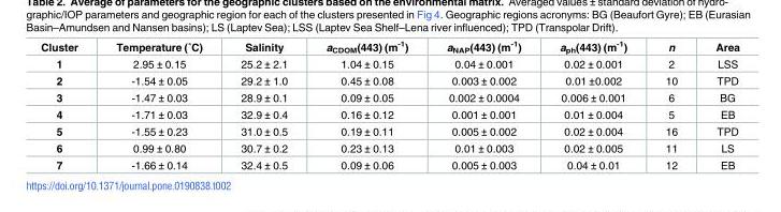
<table><thead><tr><td>Cluster</td><td>Temperature (˚C)</td><td>Salinity</td><td>a<sub>CDOM</sub>(443) (m<sup>-1</sup>)</td><td>a<sub>NAP</sub>(443) (m<sup>-1</sup>)</td><td>a<sub>ph</sub>(443) (m<sup>-1</sup>)</td><td>n</td><td>Area</td></tr></thead><tbody><tr><td>1</td><td>2.95 ± 0.15</td><td>25.2 ± 2.1</td><td>1.04 ± 0.15</td><td>0.04 ± 0.001</td><td>0.02 ± 0.001</td><td>2</td><td>LSS</td></tr><tr><td>2</td><td>-1.54 ± 0.05</td><td>29.2 ± 1.0</td><td>0.45 ± 0.08</td><td>0.003 ± 0.002</td><td>0.01 ±0.002</td><td>10</td><td>TPD</td></tr><tr><td>3</td><td>-1.47 ± 0.03</td><td>28.9 ± 0.1</td><td>0.09 ± 0.05</td><td>0.002 ± 0.0004</td><td>0.006 ± 0.001</td><td>6</td><td>BG</td></tr><tr><td>4</td><td>-1.71 ± 0.03</td><td>32.9 ± 0.4</td><td>0.16 ± 0.12</td><td>0.001 ± 0.001</td><td>0.01 ± 0.004</td><td>5</td><td>EB</td></tr><tr><td>5</td><td>-1.55 ± 0.23</td><td>31.0 ± 0.5</td><td>0.19 ± 0.11</td><td>0.005 ± 0.002</td><td>0.02 ± 0.004</td><td>16</td><td>TPD</td></tr><tr><td>6</td><td>0.99 ± 0.80</td><td>30.7 ± 0.2</td><td>0.23 ± 0.13</td><td>0.01 ± 0.003</td><td>0.02 ± 0.005</td><td>11</td><td>LS</td></tr><tr><td>7</td><td>-1.66 ± 0.14</td><td>32.4 ± 0.5</td><td>0.09 ± 0.06</td><td>0.005 ± 0.003</td><td>0.04 ± 0.01</td><td>12</td><td>EB</td></tr></tbody></table>